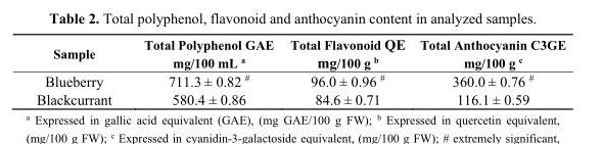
<table><thead><tr><td>Sample</td><td>Total Polyphenol GAE mg/100 mL <sup>a</sup></td><td>Total Flavonoid QE mg/100 g <sup>b</sup></td><td>Total Anthocyanin C3GE mg/100 g <sup>c</sup></td></tr></thead><tbody><tr><td>Blueberry</td><td>711.3 ± 0.82 <sup>#</sup></td><td>96.0 ± 0.96 <sup>#</sup></td><td>360.0 ± 0.76 <sup>#</sup></td></tr><tr><td>Blackcurrant</td><td>580.4 ± 0.86</td><td>84.6 ± 0.71</td><td>116.1 ± 0.59</td></tr></tbody></table>